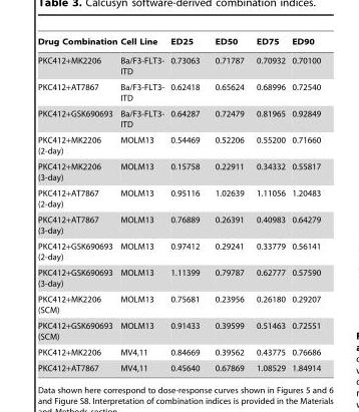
<table><thead><tr><td>Drug Combination</td><td>Cell Line</td><td>ED25</td><td>ED50</td><td>ED75</td><td>ED90</td></tr></thead><tbody><tr><td>PKC412+MK2206</td><td>Ba/F3-FLT3- ITD</td><td>0.73063</td><td>0.71787</td><td>0.70932</td><td>0.70100</td></tr><tr><td>PKC412+AT7867</td><td>Ba/F3-FLT3- ITD</td><td>0.62418</td><td>0.65624</td><td>0.68996</td><td>0.72540</td></tr><tr><td>PKC412+GSK690693</td><td>Ba/F3-FLT3- ITD</td><td>0.64287</td><td>0.72479</td><td>0.81965</td><td>0.92849</td></tr><tr><td>PKC412+MK2206 (2-day)</td><td>MOLM13</td><td>0.54469</td><td>0.52206</td><td>0.55200</td><td>0.71660</td></tr><tr><td>PKC412+MK2206 (3-day)</td><td>MOLM13</td><td>0.15758</td><td>0.22911</td><td>0.34332</td><td>0.55817</td></tr><tr><td>PKC412+AT7867 (2-day)</td><td>MOLM13</td><td>0.95116</td><td>1.02639</td><td>1.11056</td><td>1.20483</td></tr><tr><td>PKC412+AT7867 (3-day)</td><td>MOLM13</td><td>0.76889</td><td>0.26391</td><td>0.40983</td><td>0.64279</td></tr><tr><td>PKC412+GSK690693 (2-day)</td><td>MOLM13</td><td>0.97412</td><td>0.29241</td><td>0.33779</td><td>0.56141</td></tr><tr><td>PKC412+GSK690693 (3-day)</td><td>MOLM13</td><td>1.11399</td><td>0.79787</td><td>0.62777</td><td>0.57590</td></tr><tr><td>PKC412+MK2206 (SCM)</td><td>MOLM13</td><td>0.75681</td><td>0.23956</td><td>0.26180</td><td>0.29207</td></tr><tr><td>PKC412+GSK690693 (SCM)</td><td>MOLM13</td><td>0.91433</td><td>0.39599</td><td>0.51463</td><td>0.72551</td></tr><tr><td>PKC412+MK2206</td><td>MV4,11</td><td>0.84669</td><td>0.39562</td><td>0.43775</td><td>0.76686</td></tr><tr><td>PKC412+AT7867</td><td>MV4,11</td><td>0.45640</td><td>0.67869</td><td>1.08529</td><td>1.84914</td></tr></tbody></table>